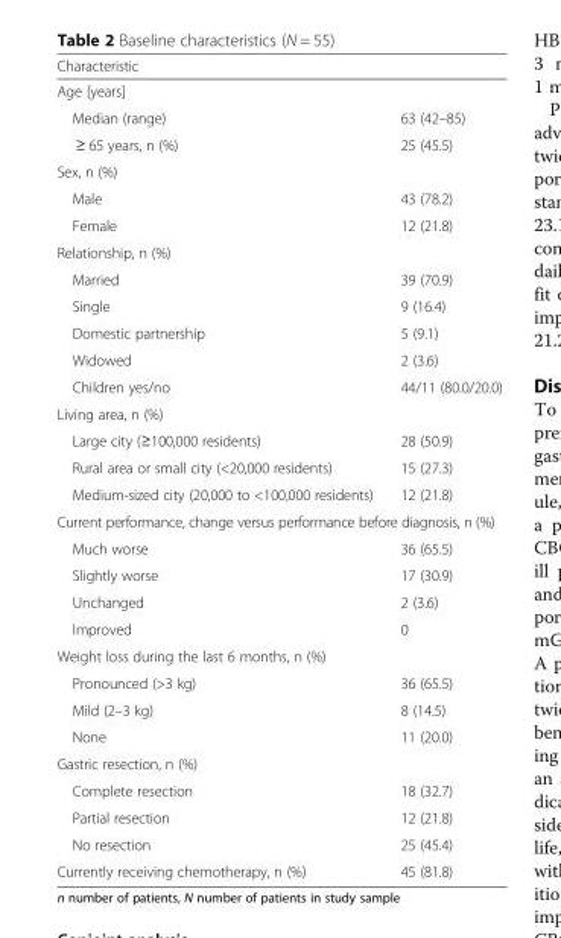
<table><thead><tr><td rowspan="2" colspan="2">Characteristic Age [years]</td></tr><tr></tr><tr><td>Median (range)</td><td>63 (42–85)</td></tr></thead><tbody><tr><td>≥ 65 years, n (%)</td><td>25 (45.5)</td></tr><tr><td colspan="2">Sex, n (%)</td></tr><tr><td>Male</td><td>43 (78.2)</td></tr><tr><td>Female</td><td>12 (21.8)</td></tr><tr><td colspan="2">Relationship, n (%)</td></tr><tr><td>Married</td><td>39 (70.9)</td></tr><tr><td>Single</td><td>9 (16.4)</td></tr><tr><td>Domestic partnership</td><td>5 (9.1)</td></tr><tr><td>Widowed</td><td>2 (3.6)</td></tr><tr><td>Children yes/no</td><td>44/11 (80.0/20.0)</td></tr><tr><td colspan="2">Living area, n (%)</td></tr><tr><td>Large city (≥100,000 residents)</td><td>28 (50.9)</td></tr><tr><td>Rural area or small city (&lt;20,000 residents)</td><td>15 (27.3)</td></tr><tr><td>Medium-sized city (20,000 to &lt;100,000 residents)</td><td>12 (21.8)</td></tr><tr><td colspan="2">Current performance, change versus performance before diagnosis, n (%)</td></tr><tr><td>Much worse</td><td>36 (65.5)</td></tr><tr><td>Slightly worse</td><td>17 (30.9)</td></tr><tr><td>Unchanged</td><td>2 (3.6)</td></tr><tr><td>Improved</td><td>0</td></tr><tr><td colspan="2">Weight loss during the last 6 months, n (%)</td></tr><tr><td>Pronounced (&gt;3 kg)</td><td>36 (65.5)</td></tr><tr><td>Mild (2–3 kg)</td><td>8 (14.5)</td></tr><tr><td>None</td><td>11 (20.0)</td></tr><tr><td colspan="2">Gastric resection, n (%)</td></tr><tr><td>Complete resection</td><td>18 (32.7)</td></tr><tr><td>Partial resection</td><td>12 (21.8)</td></tr><tr><td>No resection</td><td>25 (45.4)</td></tr><tr><td>Currently receiving chemotherapy, n (%)</td><td>45 (81.8)</td></tr></tbody></table>